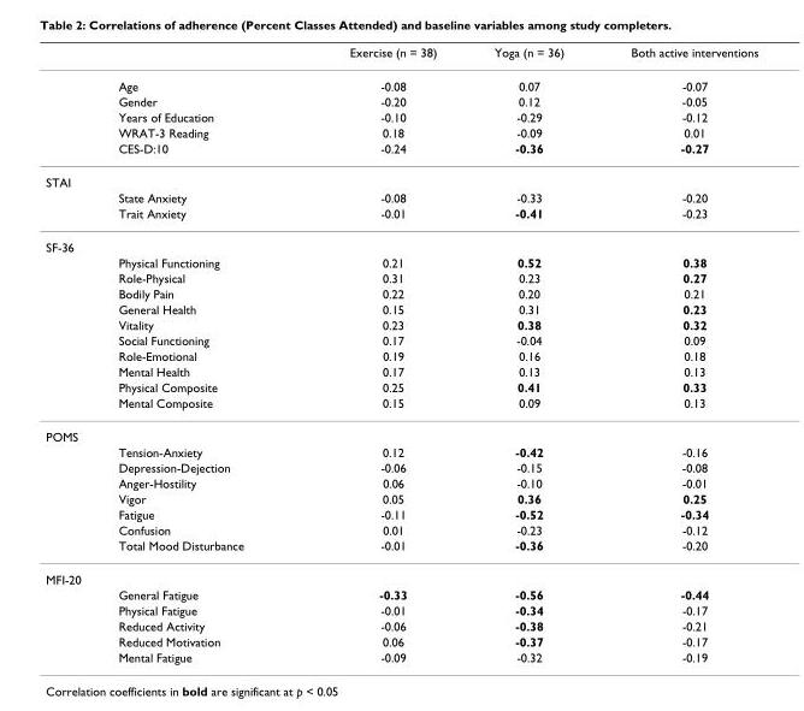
<table><thead><tr><td></td><td></td><td>Exercise (n = 38)</td><td>Yoga (n = 36)</td><td>Both active interventions</td></tr></thead><tbody><tr><td></td><td>Age</td><td>-0.08</td><td>0.07</td><td>-0.07</td></tr><tr><td></td><td>Gender</td><td>-0.20</td><td>0.12</td><td>-0.05</td></tr><tr><td></td><td>Years of Education</td><td>-0.10</td><td>-0.29</td><td>-0.12</td></tr><tr><td></td><td>WRAT-3 Reading</td><td>0.18</td><td>-0.09</td><td>0.01</td></tr><tr><td></td><td>CES-D:10</td><td>-0.24</td><td>-0.36</td><td>-0.27</td></tr><tr><td colspan="5">STAI</td></tr><tr><td></td><td>State Anxiety</td><td>-0.08</td><td>-0.33</td><td>-0.20</td></tr><tr><td></td><td>Trait Anxiety</td><td>-0.01</td><td>-0.41</td><td>-0.23</td></tr><tr><td colspan="5">SF-36</td></tr><tr><td></td><td>Physical Functioning</td><td>0.21</td><td>0.52</td><td>0.38</td></tr><tr><td></td><td>Role-Physical</td><td>0.31</td><td>0.23</td><td>0.27</td></tr><tr><td></td><td>Bodily Pain</td><td>0.22</td><td>0.20</td><td>0.21</td></tr><tr><td></td><td>General Health</td><td>0.15</td><td>0.31</td><td>0.23</td></tr><tr><td></td><td>Vitality</td><td>0.23</td><td>0.38</td><td>0.32</td></tr><tr><td></td><td>Social Functioning</td><td>0.17</td><td>-0.04</td><td>0.09</td></tr><tr><td></td><td>Role-Emotional</td><td>0.19</td><td>0.16</td><td>0.18</td></tr><tr><td></td><td>Mental Health</td><td>0.17</td><td>0.13</td><td>0.13</td></tr><tr><td></td><td>Physical Composite</td><td>0.25</td><td>0.41</td><td>0.33</td></tr><tr><td></td><td>Mental Composite</td><td>0.15</td><td>0.09</td><td>0.13</td></tr><tr><td colspan="5">POMS</td></tr><tr><td></td><td>Tension-Anxiety</td><td>0.12</td><td>-0.42</td><td>-0.16</td></tr><tr><td></td><td>Depression-Dejection</td><td>-0.06</td><td>-0.15</td><td>-0.08</td></tr><tr><td></td><td>Anger-Hostility</td><td>0.06</td><td>-0.10</td><td>-0.01</td></tr><tr><td></td><td>Vigor</td><td>0.05</td><td>0.36</td><td>0.25</td></tr><tr><td></td><td>Fatigue</td><td>-0.11</td><td>-0.52</td><td>-0.34</td></tr><tr><td></td><td>Confusion</td><td>0.01</td><td>-0.23</td><td>-0.12</td></tr><tr><td></td><td>Total Mood Disturbance</td><td>-0.01</td><td>-0.36</td><td>-0.20</td></tr><tr><td colspan="5">MFI-20</td></tr><tr><td></td><td>General Fatigue</td><td>-0.33</td><td>-0.56</td><td>-0.44</td></tr><tr><td></td><td>Physical Fatigue</td><td>-0.01</td><td>-0.34</td><td>-0.17</td></tr><tr><td></td><td>Reduced Activity</td><td>-0.06</td><td>-0.38</td><td>-0.21</td></tr><tr><td></td><td>Reduced Motivation</td><td>0.06</td><td>-0.37</td><td>-0.17</td></tr><tr><td></td><td>Mental Fatigue</td><td>-0.09</td><td>-0.32</td><td>-0.19</td></tr></tbody></table>